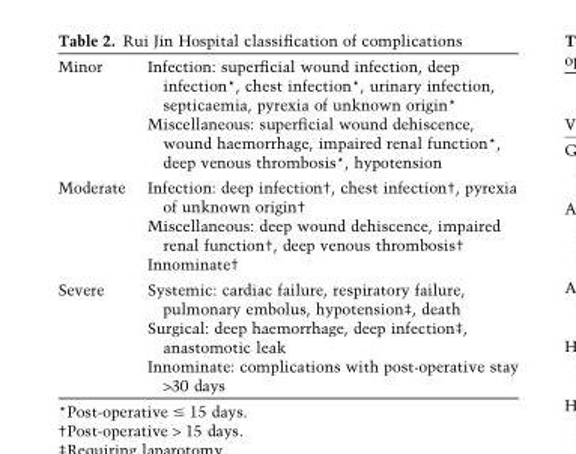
<table><tbody><tr><td>Minor</td><td>Infection: superficial wound infection, deep infection*, chest infection*, urinary infection, septicaemia, pyrexia of unknown origin* Miscellaneous: superficial wound dehiscence, wound haemorrhage, impaired renal function*, deep venous thrombosis*, hypotension</td></tr><tr><td>Moderate</td><td>Infection: deep infection†, chest infection†, pyrexia of unknown origin† Miscellaneous: deep wound dehiscence, impaired renal function†, deep venous thrombosis† Innominate†</td></tr><tr><td>Severe</td><td>Systemic: cardiac failure, respiratory failure, pulmonary embolus, hypotension‡, death Surgical: deep haemorrhage, deep infection‡, anastomotic leak Innominate: complications with post-operative stay &gt;30 days</td></tr></tbody></table>